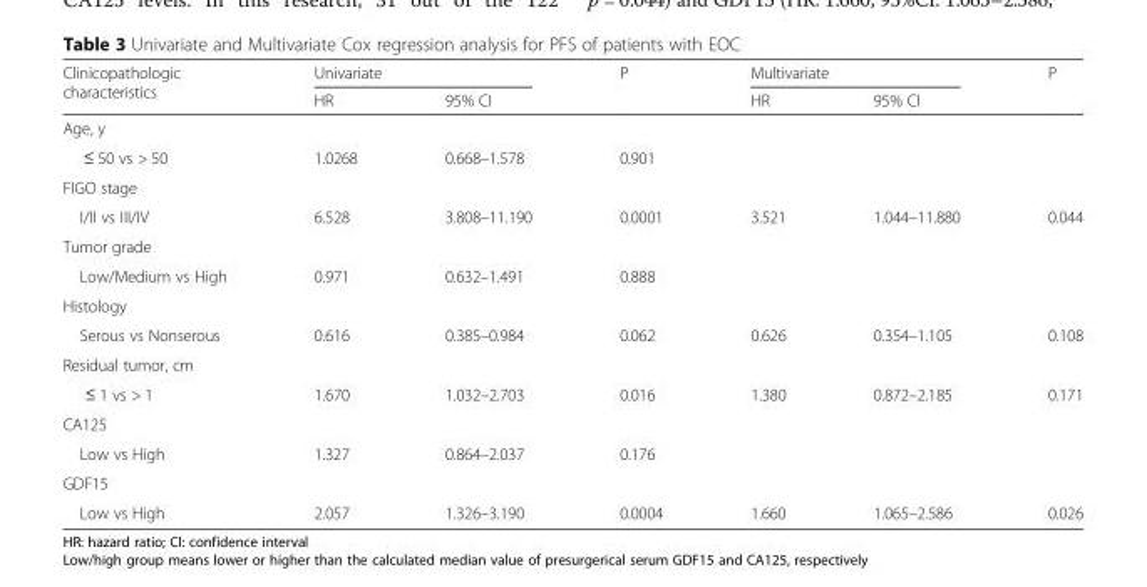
<table><thead><tr><td rowspan="2">Clinicopathologic characteristics</td><td colspan="2">Univariate</td><td rowspan="2">P</td><td colspan="2">Multivariate</td><td rowspan="2">P</td></tr><tr><td>HR</td><td>95% CI</td><td>HR</td><td>95% CI</td></tr></thead><tbody><tr><td colspan="7">Age, y</td></tr><tr><td>≤ 50 vs &gt; 50</td><td>1.0268</td><td>0.668–1.578</td><td>0.901</td><td></td><td></td><td></td></tr><tr><td colspan="7">FIGO stage</td></tr><tr><td>I/II vs III/IV</td><td>6.528</td><td>3.808–11.190</td><td>0.0001</td><td>3.521</td><td>1.044–11.880</td><td>0.044</td></tr><tr><td colspan="7">Tumor grade</td></tr><tr><td>Low/Medium vs High</td><td>0.971</td><td>0.632–1.491</td><td>0.888</td><td></td><td></td><td></td></tr><tr><td colspan="7">Histology</td></tr><tr><td>Serous vs Nonserous</td><td>0.616</td><td>0.385–0.984</td><td>0.062</td><td>0.626</td><td>0.354–1.105</td><td>0.108</td></tr><tr><td colspan="7">Residual tumor, cm</td></tr><tr><td>≤ 1 vs &gt; 1</td><td>1.670</td><td>1.032–2.703</td><td>0.016</td><td>1.380</td><td>0.872–2.185</td><td>0.171</td></tr><tr><td colspan="7">CA125</td></tr><tr><td>Low vs High</td><td>1.327</td><td>0.864–2.037</td><td>0.176</td><td></td><td></td><td></td></tr><tr><td colspan="7">GDF15</td></tr><tr><td>Low vs High</td><td>2.057</td><td>1.326–3.190</td><td>0.0004</td><td>1.660</td><td>1.065–2.586</td><td>0.026</td></tr></tbody></table>